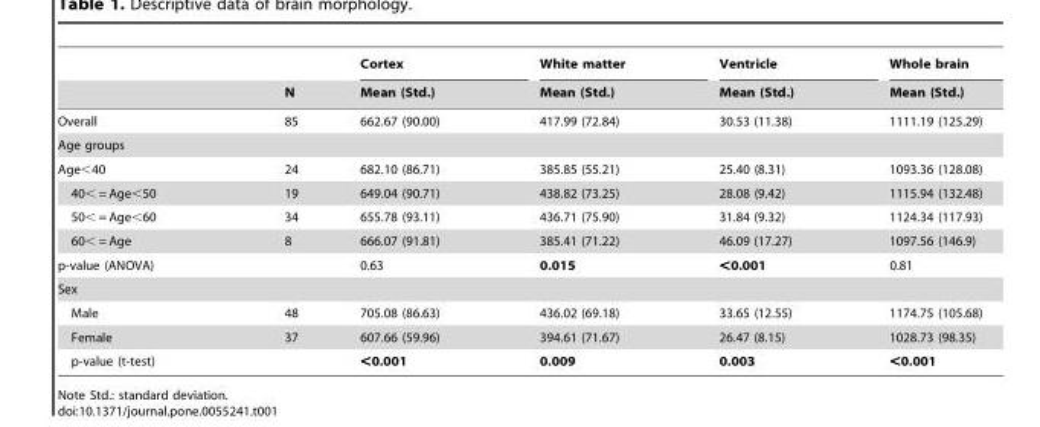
<table><thead><tr><td rowspan="2"></td><td rowspan="2">N</td><td rowspan="2">Cortex Mean (Std.)</td><td rowspan="2">White matter Mean (Std.)</td><td rowspan="2">Ventricle Mean (Std.)</td><td rowspan="2">Whole brain Mean (Std.)</td></tr><tr></tr></thead><tbody><tr><td>Overall</td><td>85</td><td>662.67 (90.00)</td><td>417.99 (72.84)</td><td>30.53 (11.38)</td><td>1111.19 (125.29)</td></tr><tr><td colspan="6">Age groups</td></tr><tr><td>Age&lt;40</td><td>24</td><td>682.10 (86.71)</td><td>385.85 (55.21)</td><td>25.40 (8.31)</td><td>1093.36 (128.08)</td></tr><tr><td>40&lt; = Age&lt;50</td><td>19</td><td>649.04 (90.71)</td><td>438.82 (73.25)</td><td>28.08 (9.42)</td><td>1115.94 (132.48)</td></tr><tr><td>50&lt; = Age&lt;60</td><td>34</td><td>655.78 (93.11)</td><td>436.71 (75.90)</td><td>31.84 (9.32)</td><td>1124.34 (117.93)</td></tr><tr><td>60&lt; = Age</td><td>8</td><td>666.07 (91.81)</td><td>385.41 (71.22)</td><td>46.09 (17.27)</td><td>1097.56 (146.9)</td></tr><tr><td>p-value (ANOVA)</td><td></td><td>0.63</td><td>0.015</td><td>&lt;0.001</td><td>0.81</td></tr><tr><td colspan="6">Sex</td></tr><tr><td>Male</td><td>48</td><td>705.08 (86.63)</td><td>436.02 (69.18)</td><td>33.65 (12.55)</td><td>1174.75 (105.68)</td></tr><tr><td>Female</td><td>37</td><td>607.66 (59.96)</td><td>394.61 (71.67)</td><td>26.47 (8.15)</td><td>1028.73 (98.35)</td></tr><tr><td>p-value (t-test)</td><td></td><td>&lt;0.001</td><td>0.009</td><td>0.003</td><td>&lt;0.001</td></tr></tbody></table>